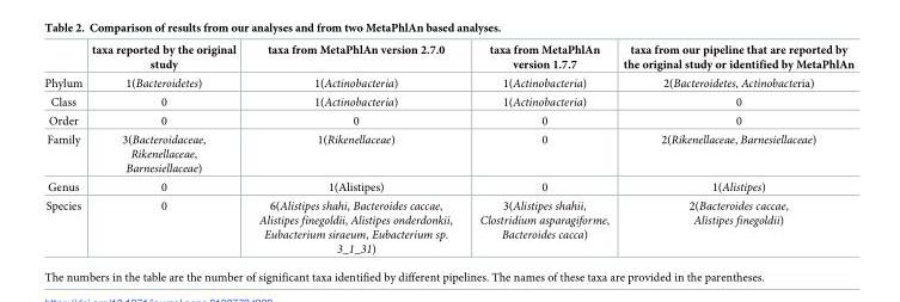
<table><thead><tr><td></td><td>taxa reported by the original study</td><td>taxa from MetaPhlAn version 2.7.0</td><td>taxa from MetaPhlAn version 1.7.7</td><td>taxa from our pipeline that are reported by the original study or identified by MetaPhlAn</td></tr></thead><tbody><tr><td>Phylum</td><td>1(Bacteroidetes)</td><td>1(Actinobacteria)</td><td>1(Actinobacteria)</td><td>2(Bacteroidetes, Actinobacteria)</td></tr><tr><td>Class</td><td>0</td><td>1(Actinobacteria)</td><td>1(Actinobacteria)</td><td>0</td></tr><tr><td>Order</td><td>0</td><td>0</td><td>0</td><td>0</td></tr><tr><td>Family</td><td>3(Bacteroidaceae, Rikenellaceae, Barnesiellaceae)</td><td>1(Rikenellaceae)</td><td>0</td><td>2(Rikenellaceae, Barnesiellaceae)</td></tr><tr><td>Genus</td><td>0</td><td>1(Alistipes)</td><td>0</td><td>1(Alistipes)</td></tr><tr><td>Species</td><td>0</td><td>6(Alistipes shahi, Bacteroides caccae, Alistipes finegoldii, Alistipes onderdonkii, Eubacterium siraeum, Eubacterium sp. 3_1_31)</td><td>3(Alistipes shahii, Clostridium asparagiforme, Bacteroides cacca)</td><td>2(Bacteroides caccae, Alistipes finegoldii)</td></tr></tbody></table>